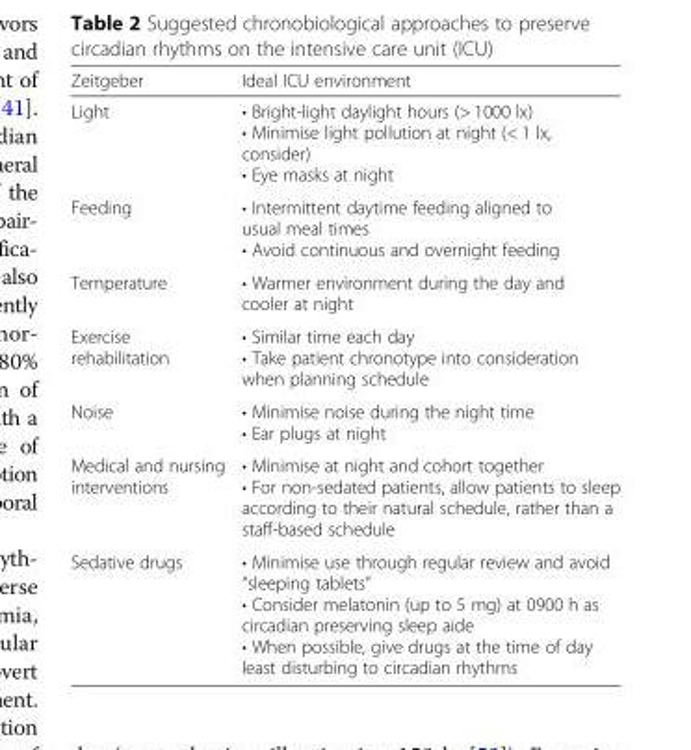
<table><thead><tr><td>Zeitgeber</td><td>Ideal ICU environment</td></tr></thead><tbody><tr><td>Light</td><td>• Bright-light daylight hours (&gt; 1000 lx) • Minimise light pollution at night (&lt; 1 lx, consider) • Eye masks at night</td></tr><tr><td>Feeding</td><td>• Intermittent daytime feeding aligned to usual meal times • Avoid continuous and overnight feeding</td></tr><tr><td>Temperature</td><td>• Warmer environment during the day and cooler at night</td></tr><tr><td>Exercise rehabilitation</td><td>• Similar time each day • Take patient chronotype into consideration when planning schedule</td></tr><tr><td>Noise</td><td>• Minimise noise during the night time • Ear plugs at night</td></tr><tr><td>Medical and nursing interventions</td><td>• Minimise at night and cohort together • For non-sedated patients, allow patients to sleep according to their natural schedule, rather than a staff-based schedule</td></tr><tr><td>Sedative drugs</td><td>• Minimise use through regular review and avoid “sleeping tablets” • Consider melatonin (up to 5 mg) at 0900 h as circadian preserving sleep aide • When possible, give drugs at the time of day least disturbing to circadian rhythms</td></tr></tbody></table>